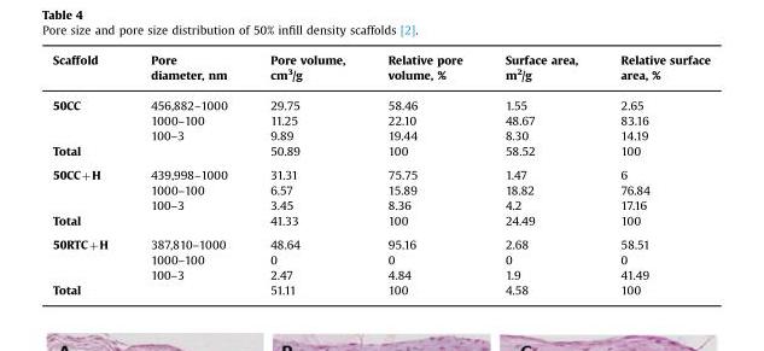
<table><thead><tr><td>Scaffold</td><td>Pore diameter, nm</td><td>Pore volume, cm<sup>3</sup>/g</td><td>Relative pore volume, %</td><td>Surface area, m<sup>2</sup>/g</td><td>Relative surface area, %</td></tr></thead><tbody><tr><td rowspan="3">50CC</td><td>456,882–1000</td><td>29.75</td><td>58.46</td><td>1.55</td><td>2.65</td></tr><tr><td>1000–100</td><td>11.25</td><td>22.10</td><td>48.67</td><td>83.16</td></tr><tr><td>100–3</td><td>9.89</td><td>19.44</td><td>8.30</td><td>14.19</td></tr><tr><td>Total</td><td></td><td>50.89</td><td>100</td><td>58.52</td><td>100</td></tr><tr><td rowspan="3">50CC+H</td><td>439,998–1000</td><td>31.31</td><td>75.75</td><td>1.47</td><td>6</td></tr><tr><td>1000–100</td><td>6.57</td><td>15.89</td><td>18.82</td><td>76.84</td></tr><tr><td>100–3</td><td>3.45</td><td>8.36</td><td>4.2</td><td>17.16</td></tr><tr><td>Total</td><td></td><td>41.33</td><td>100</td><td>24.49</td><td>100</td></tr><tr><td rowspan="3">50RTC+H</td><td>387,810–1000</td><td>48.64</td><td>95.16</td><td>2.68</td><td>58.51</td></tr><tr><td>1000–100</td><td>0</td><td>0</td><td>0</td><td>0</td></tr><tr><td>100–3</td><td>2.47</td><td>4.84</td><td>1.9</td><td>41.49</td></tr><tr><td>Total</td><td></td><td>51.11</td><td>100</td><td>4.58</td><td>100</td></tr></tbody></table>